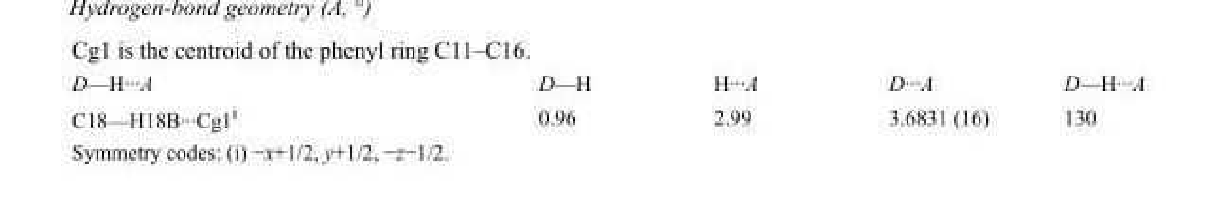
<table><tbody><tr><td>D—H···A</td><td>D—H</td><td>H···A</td><td>D···A</td><td>D—H···A</td></tr><tr><td>C18—H18B···Cg1<sup>i</sup></td><td>0.96</td><td>2.99</td><td>3.6831 (16)</td><td>130</td></tr></tbody></table>